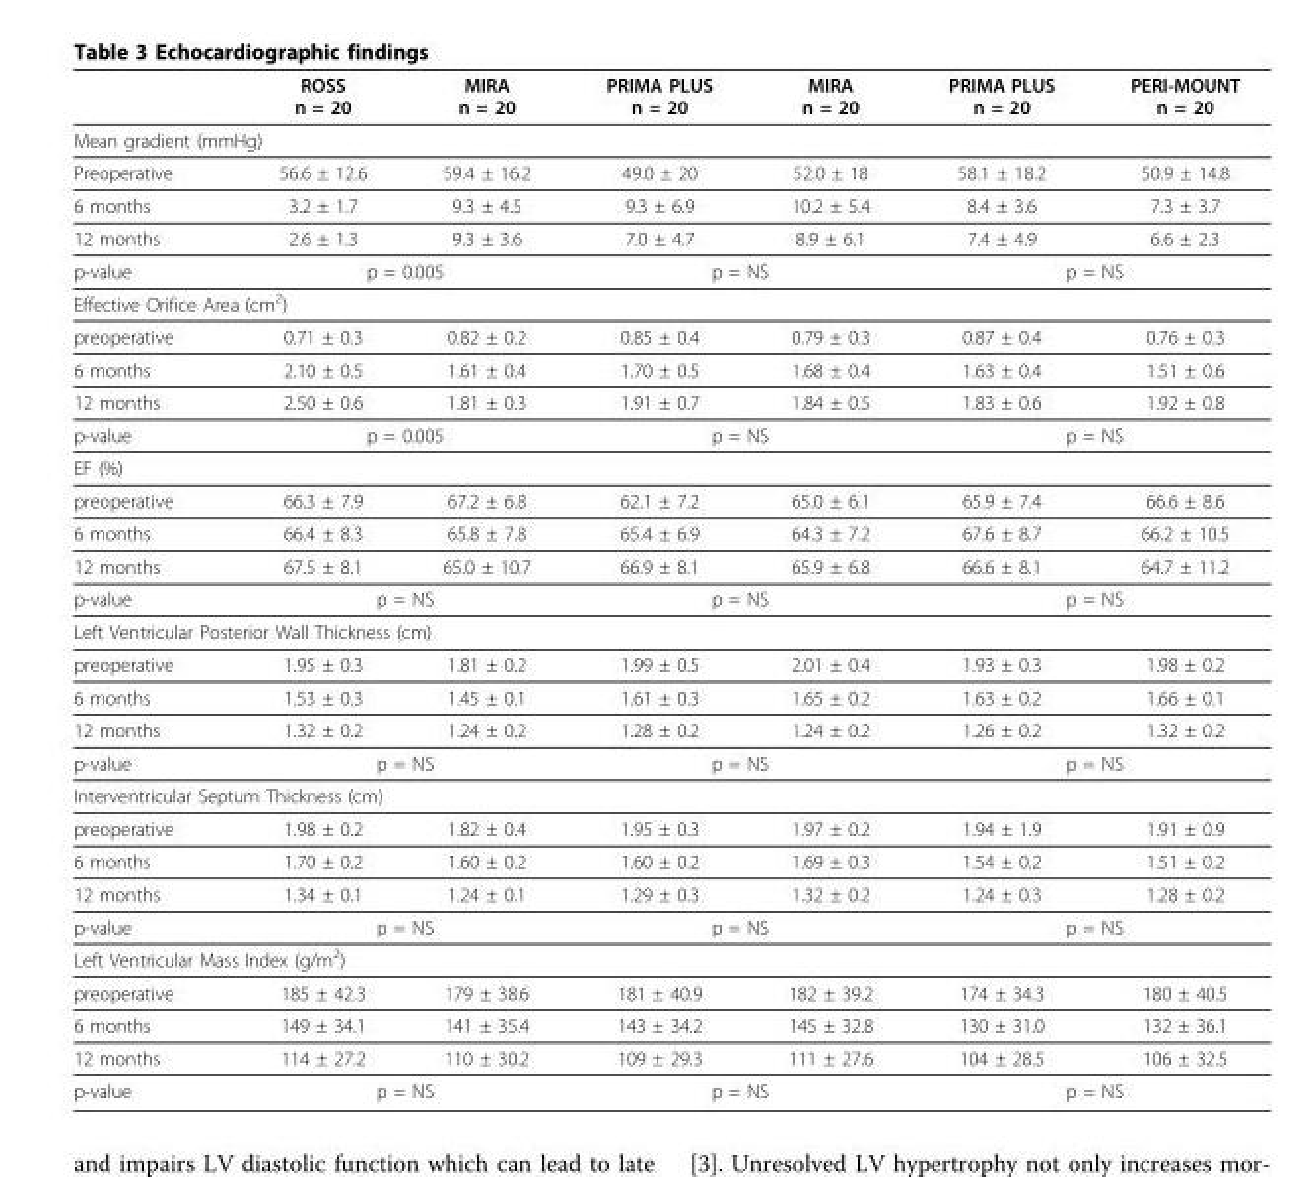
<table><thead><tr><td></td><td>ROSS n = 20</td><td>MIRA n = 20</td><td>PRIMA PLUS n = 20</td><td>MIRA n = 20</td><td>PRIMA PLUS n = 20</td><td>PERI-MOUNT n = 20</td></tr></thead><tbody><tr><td colspan="7">Mean gradient (mmHg)</td></tr><tr><td>Preoperative</td><td>56.6 ± 12.6</td><td>59.4 ± 16.2</td><td>49.0 ± 20</td><td>52.0 ± 18</td><td>58.1 ± 18.2</td><td>50.9 ± 14.8</td></tr><tr><td>6 months</td><td>3.2 ± 1.7</td><td>9.3 ± 4.5</td><td>9.3 ± 6.9</td><td>10.2 ± 5.4</td><td>8.4 ± 3.6</td><td>7.3 ± 3.7</td></tr><tr><td>12 months</td><td>2.6 ± 1.3</td><td>9.3 ± 3.6</td><td>7.0 ± 4.7</td><td>8.9 ± 6.1</td><td>7.4 ± 4.9</td><td>6.6 ± 2.3</td></tr><tr><td>p-value</td><td colspan="2">p = 0.005</td><td colspan="2">p = NS</td><td colspan="2">p = NS</td></tr><tr><td colspan="7">Effective Orifice Area (cm<sup>2</sup>)</td></tr><tr><td>preoperative</td><td>0.71 ± 0.3</td><td>0.82 ± 0.2</td><td>0.85 ± 0.4</td><td>0.79 ± 0.3</td><td>0.87 ± 0.4</td><td>0.76 ± 0.3</td></tr><tr><td>6 months</td><td>2.10 ± 0.5</td><td>1.61 ± 0.4</td><td>1.70 ± 0.5</td><td>1.68 ± 0.4</td><td>1.63 ± 0.4</td><td>1.51 ± 0.6</td></tr><tr><td>12 months</td><td>2.50 ± 0.6</td><td>1.81 ± 0.3</td><td>1.91 ± 0.7</td><td>1.84 ± 0.5</td><td>1.83 ± 0.6</td><td>1.92 ± 0.8</td></tr><tr><td>p-value</td><td colspan="2">p = 0.005</td><td colspan="2">p = NS</td><td colspan="2">p = NS</td></tr><tr><td colspan="7">EF (%)</td></tr><tr><td>preoperative</td><td>66.3 ± 7.9</td><td>67.2 ± 6.8</td><td>62.1 ± 7.2</td><td>65.0 ± 6.1</td><td>65.9 ± 7.4</td><td>66.6 ± 8.6</td></tr><tr><td>6 months</td><td>66.4 ± 8.3</td><td>65.8 ± 7.8</td><td>65.4 ± 6.9</td><td>64.3 ± 7.2</td><td>67.6 ± 8.7</td><td>66.2 ± 10.5</td></tr><tr><td>12 months</td><td>67.5 ± 8.1</td><td>65.0 ± 10.7</td><td>66.9 ± 8.1</td><td>65.9 ± 6.8</td><td>66.6 ± 8.1</td><td>64.7 ± 11.2</td></tr><tr><td>p-value</td><td colspan="2">p = NS</td><td colspan="2">p = NS</td><td colspan="2">p = NS</td></tr><tr><td colspan="7">Left Ventricular Posterior Wall Thickness (cm)</td></tr><tr><td>preoperative</td><td>1.95 ± 0.3</td><td>1.81 ± 0.2</td><td>1.99 ± 0.5</td><td>2.01 ± 0.4</td><td>1.93 ± 0.3</td><td>1.98 ± 0.2</td></tr><tr><td>6 months</td><td>1.53 ± 0.3</td><td>1.45 ± 0.1</td><td>1.61 ± 0.3</td><td>1.65 ± 0.2</td><td>1.63 ± 0.2</td><td>1.66 ± 0.1</td></tr><tr><td>12 months</td><td>1.32 ± 0.2</td><td>1.24 ± 0.2</td><td>1.28 ± 0.2</td><td>1.24 ± 0.2</td><td>1.26 ± 0.2</td><td>1.32 ± 0.2</td></tr><tr><td>p-value</td><td colspan="2">p = NS</td><td colspan="2">p = NS</td><td colspan="2">p = NS</td></tr><tr><td colspan="7">Interventricular Septum Thickness (cm)</td></tr><tr><td>preoperative</td><td>1.98 ± 0.2</td><td>1.82 ± 0.4</td><td>1.95 ± 0.3</td><td>1.97 ± 0.2</td><td>1.94 ± 1.9</td><td>1.91 ± 0.9</td></tr><tr><td>6 months</td><td>1.70 ± 0.2</td><td>1.60 ± 0.2</td><td>1.60 ± 0.2</td><td>1.69 ± 0.3</td><td>1.54 ± 0.2</td><td>1.51 ± 0.2</td></tr><tr><td>12 months</td><td>1.34 ± 0.1</td><td>1.24 ± 0.1</td><td>1.29 ± 0.3</td><td>1.32 ± 0.2</td><td>1.24 ± 0.3</td><td>1.28 ± 0.2</td></tr><tr><td>p-value</td><td colspan="2">p = NS</td><td colspan="2">p = NS</td><td colspan="2">p = NS</td></tr><tr><td colspan="7">Left Ventricular Mass Index (g/m<sup>2</sup>)</td></tr><tr><td>preoperative</td><td>185 ± 42.3</td><td>179 ± 38.6</td><td>181 ± 40.9</td><td>182 ± 39.2</td><td>174 ± 34.3</td><td>180 ± 40.5</td></tr><tr><td>6 months</td><td>149 ± 34.1</td><td>141 ± 35.4</td><td>143 ± 34.2</td><td>145 ± 32.8</td><td>130 ± 31.0</td><td>132 ± 36.1</td></tr><tr><td>12 months</td><td>114 ± 27.2</td><td>110 ± 30.2</td><td>109 ± 29.3</td><td>111 ± 27.6</td><td>104 ± 28.5</td><td>106 ± 32.5</td></tr><tr><td>p-value</td><td colspan="2">p = NS</td><td colspan="2">p = NS</td><td colspan="2">p = NS</td></tr></tbody></table>